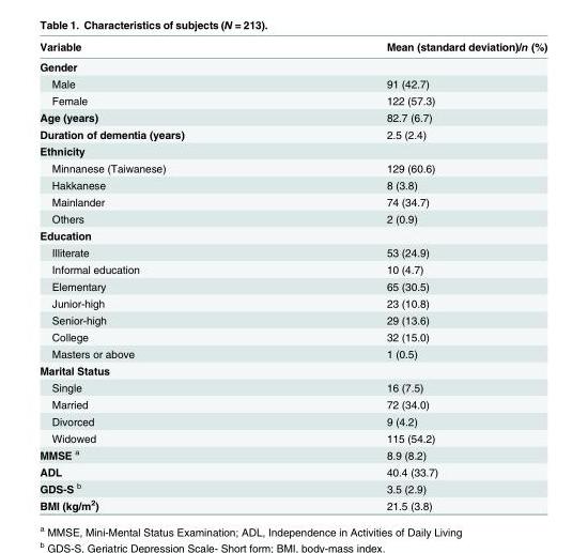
<table><thead><tr><td>Variable</td><td>Mean (standard deviation)/n (%)</td></tr></thead><tbody><tr><td colspan="2">Gender</td></tr><tr><td>Male</td><td>91 (42.7)</td></tr><tr><td>Female</td><td>122 (57.3)</td></tr><tr><td>Age (years)</td><td>82.7 (6.7)</td></tr><tr><td>Duration of dementia (years)</td><td>2.5 (2.4)</td></tr><tr><td colspan="2">Ethnicity</td></tr><tr><td>Minnanese (Taiwanese)</td><td>129 (60.6)</td></tr><tr><td>Hakkanese</td><td>8 (3.8)</td></tr><tr><td>Mainlander</td><td>74 (34.7)</td></tr><tr><td>Others</td><td>2 (0.9)</td></tr><tr><td colspan="2">Education</td></tr><tr><td>Illiterate</td><td>53 (24.9)</td></tr><tr><td>Informal education</td><td>10 (4.7)</td></tr><tr><td>Elementary</td><td>65 (30.5)</td></tr><tr><td>Junior-high</td><td>23 (10.8)</td></tr><tr><td>Senior-high</td><td>29 (13.6)</td></tr><tr><td>College</td><td>32 (15.0)</td></tr><tr><td>Masters or above</td><td>1 (0.5)</td></tr><tr><td colspan="2">Marital Status</td></tr><tr><td>Single</td><td>16 (7.5)</td></tr><tr><td>Married</td><td>72 (34.0)</td></tr><tr><td>Divorced</td><td>9 (4.2)</td></tr><tr><td>Widowed</td><td>115 (54.2)</td></tr><tr><td>MMSE <sup>a</sup></td><td>8.9 (8.2)</td></tr><tr><td>ADL</td><td>40.4 (33.7)</td></tr><tr><td>GDS-S <sup>b</sup></td><td>3.5 (2.9)</td></tr><tr><td>BMI (kg/m<sup>2</sup>)</td><td>21.5 (3.8)</td></tr></tbody></table>